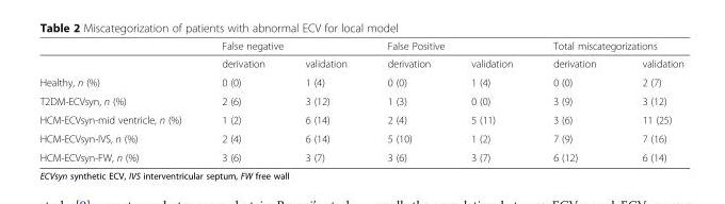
<table><thead><tr><td rowspan="2"></td><td colspan="2">False negative</td><td colspan="2">False Positive</td><td colspan="2">Total miscategorizations</td></tr><tr><td>derivation</td><td>validation</td><td>derivation</td><td>validation</td><td>derivation</td><td>validation</td></tr></thead><tbody><tr><td>Healthy, n (%)</td><td>0 (0)</td><td>1 (4)</td><td>0 (0)</td><td>1 (4)</td><td>0 (0)</td><td>2 (7)</td></tr><tr><td>T2DM-ECVsyn, n (%)</td><td>2 (6)</td><td>3 (12)</td><td>1 (3)</td><td>0 (0)</td><td>3 (9)</td><td>3 (12)</td></tr><tr><td>HCM-ECVsyn-mid ventricle, n (%)</td><td>1 (2)</td><td>6 (14)</td><td>2 (4)</td><td>5 (11)</td><td>3 (6)</td><td>11 (25)</td></tr><tr><td>HCM-ECVsyn-IVS, n (%)</td><td>2 (4)</td><td>6 (14)</td><td>5 (10)</td><td>1 (2)</td><td>7 (9)</td><td>7 (16)</td></tr><tr><td>HCM-ECVsyn-FW, n (%)</td><td>3 (6)</td><td>3 (7)</td><td>3 (6)</td><td>3 (7)</td><td>6 (12)</td><td>6 (14)</td></tr></tbody></table>